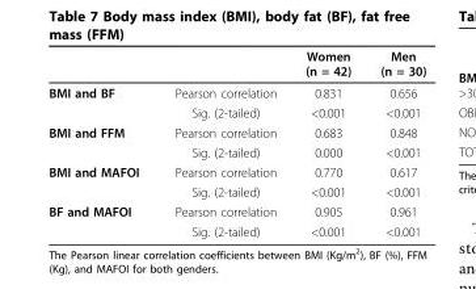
<table><thead><tr><td></td><td></td><td>Women (n = 42)</td><td>Men (n = 30)</td></tr></thead><tbody><tr><td rowspan="2">BMI and BF</td><td>Pearson correlation</td><td>0.831</td><td>0.656</td></tr><tr><td>Sig. (2-tailed)</td><td>&lt;0.001</td><td>&lt;0.001</td></tr><tr><td rowspan="2">BMI and FFM</td><td>Pearson correlation</td><td>0.683</td><td>0.848</td></tr><tr><td>Sig. (2-tailed)</td><td>0.000</td><td>&lt;0.001</td></tr><tr><td rowspan="2">BMI and MAFOI</td><td>Pearson correlation</td><td>0.770</td><td>0.617</td></tr><tr><td>Sig. (2-tailed)</td><td>&lt;0.001</td><td>&lt;0.001</td></tr><tr><td rowspan="2">BF and MAFOI</td><td>Pearson correlation</td><td>0.905</td><td>0.961</td></tr><tr><td>Sig. (2-tailed)</td><td>&lt;0.001</td><td>&lt;0.001</td></tr></tbody></table>